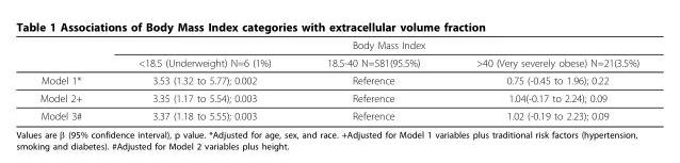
<table><thead><tr><td rowspan="2"></td><td colspan="3">Body Mass Index</td></tr><tr><td>&lt;18.5 (Underweight) N=6 (1%)</td><td>18.5-40 N=581(95.5%)</td><td>&gt;40 (Very severely obese) N=21(3.5%)</td></tr></thead><tbody><tr><td>Model 1*</td><td>3.53 (1.32 to 5.77); 0.002</td><td>Reference</td><td>0.75 (-0.45 to 1.96); 0.22</td></tr><tr><td>Model 2+</td><td>3.35 (1.17 to 5.54); 0.003</td><td>Reference</td><td>1.04(-0.17 to 2.24); 0.09</td></tr><tr><td>Model 3#</td><td>3.37 (1.18 to 5.55); 0.003</td><td>Reference</td><td>1.02 (-0.19 to 2.23); 0.09</td></tr></tbody></table>